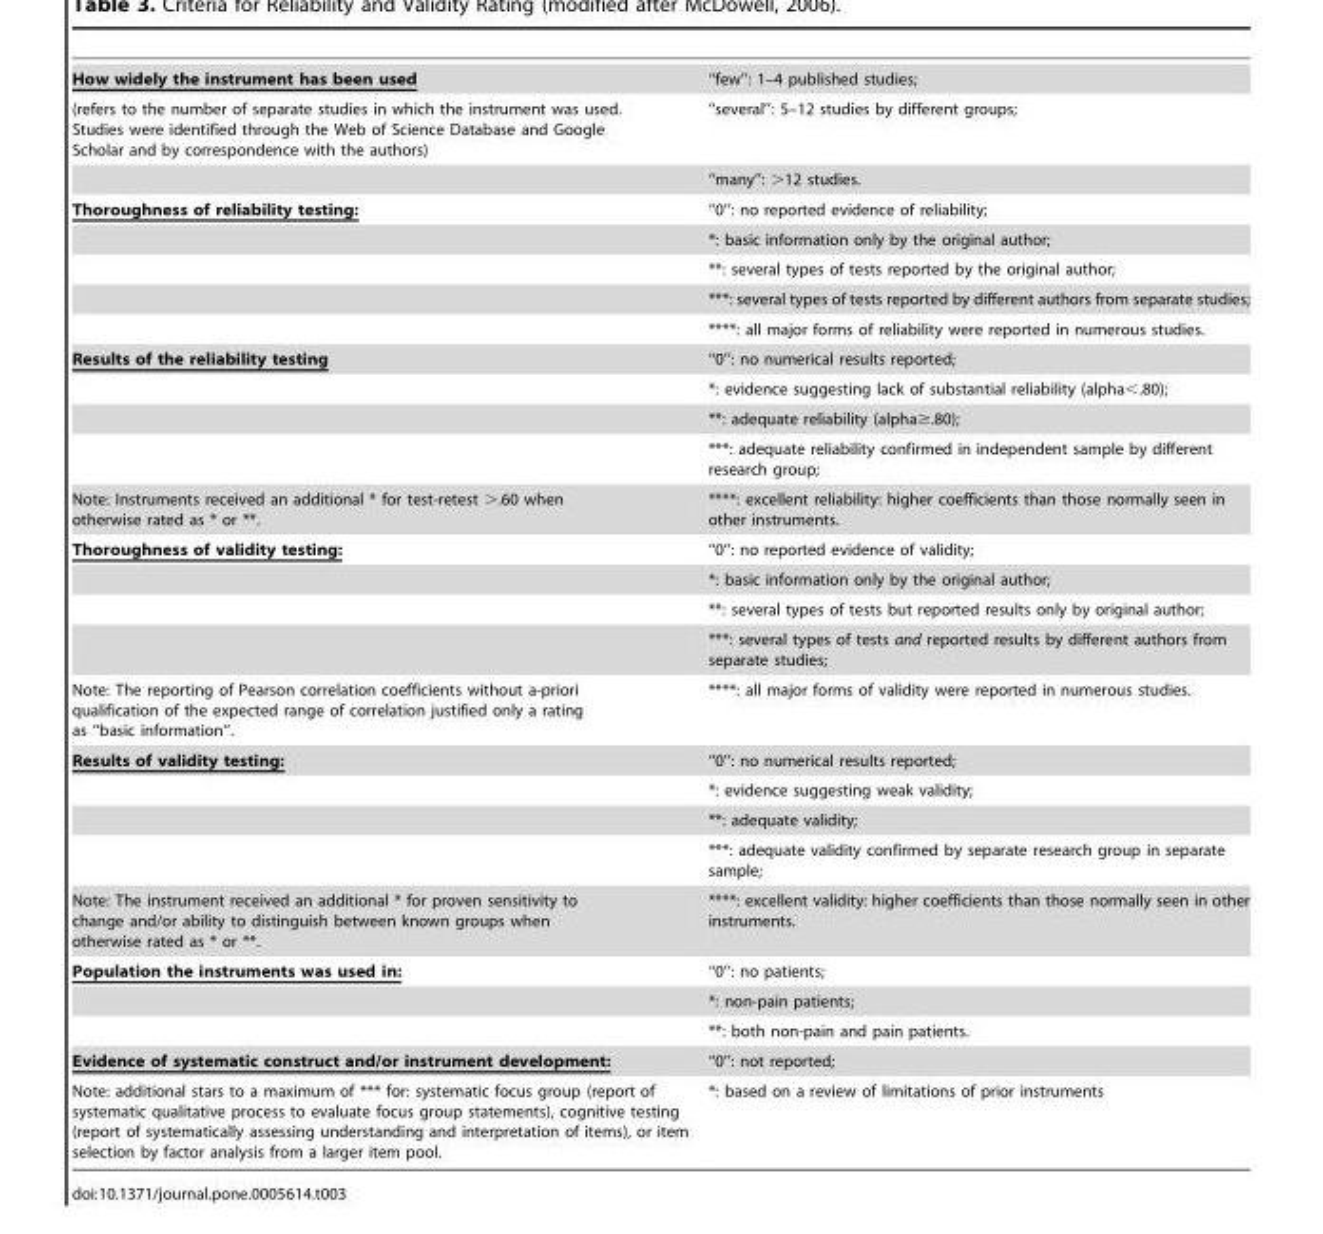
<table><tbody><tr><td>How widely the instrument has been used</td><td>‘‘few’’: 1–4 published studies;</td></tr><tr><td rowspan="2">(refers to the number of separate studies in which the instrument was used. Studies were identified through the Web of Science Database and Google Scholar and by correspondence with the authors)</td><td>‘‘several’’: 5–12 studies by different groups;</td></tr><tr><td>‘‘many’’: .12 studies.</td></tr><tr><td rowspan="5">Thoroughness of reliability testing:</td><td>‘‘0’’: no reported evidence of reliability;</td></tr><tr><td>*: basic information only by the original author;</td></tr><tr><td>**: several types of tests reported by the original author;</td></tr><tr><td>***: several types of tests reported by different authors from separate studies;</td></tr><tr><td>****: all major forms of reliability were reported in numerous studies.</td></tr><tr><td rowspan="4">Results of the reliability testing</td><td>‘‘0’’: no numerical results reported;</td></tr><tr><td>*: evidence suggesting lack of substantial reliability (alpha&lt;.80);</td></tr><tr><td>**: adequate reliability (alpha≥.80);</td></tr><tr><td>***: adequate reliability confirmed in independent sample by different research group;</td></tr><tr><td>Note: Instruments received an additional * for test-retest &gt;.60 when otherwise rated as * or **.</td><td>****: excellent reliability: higher coefficients than those normally seen in other instruments.</td></tr><tr><td rowspan="4">Thoroughness of validity testing:</td><td>‘‘0’’: no reported evidence of validity;</td></tr><tr><td>*: basic information only by the original author;</td></tr><tr><td>**: several types of tests but reported results only by original author;</td></tr><tr><td>***: several types of tests and reported results by different authors from separate studies;</td></tr><tr><td>Note: The reporting of Pearson correlation coefficients without a-priori qualification of the expected range of correlation justified only a rating as ‘‘basic information’’.</td><td>****: all major forms of validity were reported in numerous studies.</td></tr><tr><td rowspan="4">Results of validity testing:</td><td>‘‘0’’: no numerical results reported;</td></tr><tr><td>*: evidence suggesting weak validity;</td></tr><tr><td>**: adequate validity;</td></tr><tr><td>***: adequate validity confirmed by separate research group in separate sample;</td></tr><tr><td>Note: The instrument received an additional * for proven sensitivity to change and/or ability to distinguish between known groups when otherwise rated as * or **.</td><td>****: excellent validity: higher coefficients than those normally seen in other instruments.</td></tr><tr><td rowspan="3">Population the instruments was used in:</td><td>‘‘0’’: no patients;</td></tr><tr><td>*: non-pain patients;</td></tr><tr><td>**: both non-pain and pain patients.</td></tr><tr><td>Evidence of systematic construct and/or instrument development:</td><td>‘‘0’’: not reported;</td></tr><tr><td>Note: additional stars to a maximum of *** for: systematic focus group (report of systematic qualitative process to evaluate focus group statements), cognitive testing (report of systematically assessing understanding and interpretation of items), or item selection by factor analysis from a larger item pool.</td><td>*: based on a review of limitations of prior instruments</td></tr></tbody></table>